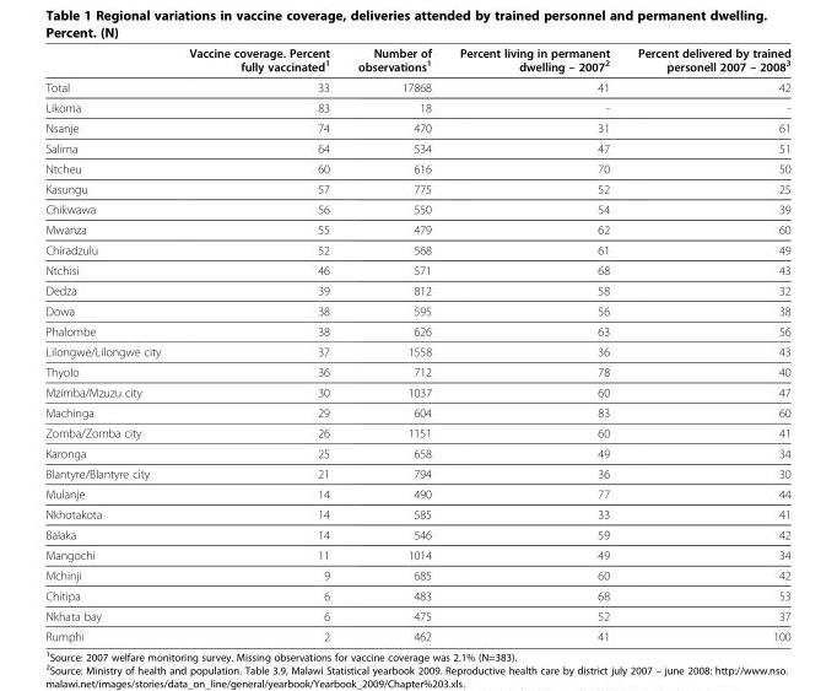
<table><thead><tr><td></td><td>Vaccine coverage. Percent fully vaccinated<sup>1</sup></td><td>Number of observations<sup>1</sup></td><td>Percent living in permanent dwelling – 2007<sup>2</sup></td><td>Percent delivered by trained personell 2007 – 2008<sup>3</sup></td></tr></thead><tbody><tr><td>Total</td><td>33</td><td>17868</td><td>41</td><td>42</td></tr><tr><td>Likoma</td><td>83</td><td>18</td><td>-</td><td>-</td></tr><tr><td>Nsanje</td><td>74</td><td>470</td><td>31</td><td>61</td></tr><tr><td>Salima</td><td>64</td><td>534</td><td>47</td><td>51</td></tr><tr><td>Ntcheu</td><td>60</td><td>616</td><td>70</td><td>50</td></tr><tr><td>Kasungu</td><td>57</td><td>775</td><td>52</td><td>25</td></tr><tr><td>Chikwawa</td><td>56</td><td>550</td><td>54</td><td>39</td></tr><tr><td>Mwanza</td><td>55</td><td>479</td><td>62</td><td>60</td></tr><tr><td>Chiradzulu</td><td>52</td><td>568</td><td>61</td><td>49</td></tr><tr><td>Ntchisi</td><td>46</td><td>571</td><td>68</td><td>43</td></tr><tr><td>Dedza</td><td>39</td><td>812</td><td>58</td><td>32</td></tr><tr><td>Dowa</td><td>38</td><td>595</td><td>56</td><td>38</td></tr><tr><td>Phalombe</td><td>38</td><td>626</td><td>63</td><td>56</td></tr><tr><td>Lilongwe/Lilongwe city</td><td>37</td><td>1558</td><td>36</td><td>43</td></tr><tr><td>Thyolo</td><td>36</td><td>712</td><td>78</td><td>40</td></tr><tr><td>Mzimba/Mzuzu city</td><td>30</td><td>1037</td><td>60</td><td>47</td></tr><tr><td>Machinga</td><td>29</td><td>604</td><td>83</td><td>60</td></tr><tr><td>Zomba/Zomba city</td><td>26</td><td>1151</td><td>60</td><td>41</td></tr><tr><td>Karonga</td><td>25</td><td>658</td><td>49</td><td>34</td></tr><tr><td>Blantyre/Blantyre city</td><td>21</td><td>794</td><td>36</td><td>30</td></tr><tr><td>Mulanje</td><td>14</td><td>490</td><td>77</td><td>44</td></tr><tr><td>Nkhotakota</td><td>14</td><td>585</td><td>33</td><td>41</td></tr><tr><td>Balaka</td><td>14</td><td>546</td><td>59</td><td>42</td></tr><tr><td>Mangochi</td><td>11</td><td>1014</td><td>49</td><td>34</td></tr><tr><td>Mchinji</td><td>9</td><td>685</td><td>60</td><td>42</td></tr><tr><td>Chitipa</td><td>6</td><td>483</td><td>68</td><td>53</td></tr><tr><td>Nkhata bay</td><td>6</td><td>475</td><td>52</td><td>37</td></tr><tr><td>Rumphi</td><td>2</td><td>462</td><td>41</td><td>100</td></tr></tbody></table>